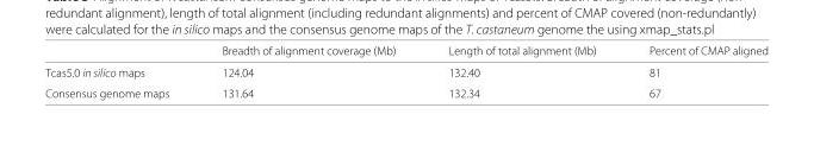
<table><thead><tr><td></td><td>Breadth of alignment coverage (Mb)</td><td>Length of total alignment (Mb)</td><td>Percent of CMAP aligned</td></tr></thead><tbody><tr><td>Tcas5.0 in silico maps</td><td>124.04</td><td>132.40</td><td>81</td></tr><tr><td>Consensus genome maps</td><td>131.64</td><td>132.34</td><td>67</td></tr></tbody></table>